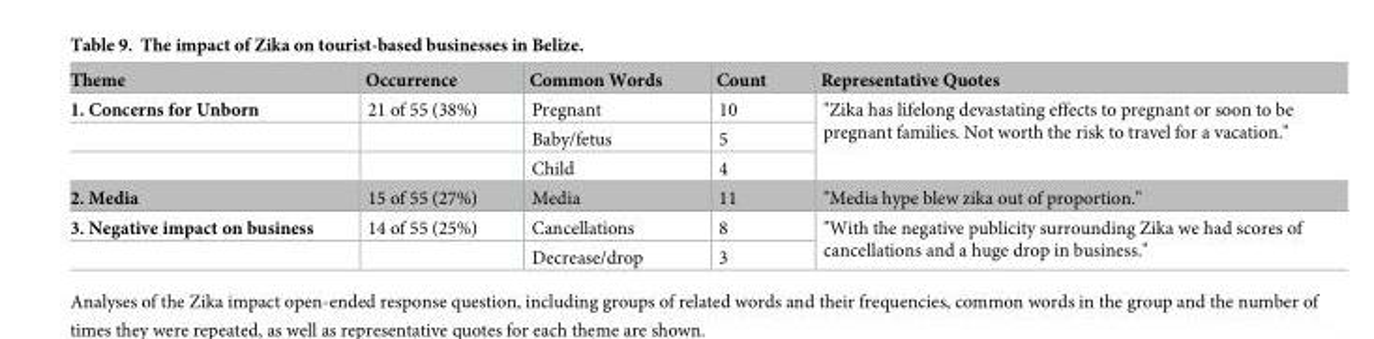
<table><thead><tr><td>Theme</td><td>Occurrence</td><td>Common Words</td><td>Count</td><td>Representative Quotes</td></tr></thead><tbody><tr><td rowspan="3">1. Concerns for Unborn</td><td>21 of 55 (38%)</td><td>Pregnant</td><td>10</td><td rowspan="3">&quot;Zika has lifelong devastating effects to pregnant or soon to be pregnant families. Not worth the risk to travel for a vacation.&quot;</td></tr><tr><td></td><td>Baby/fetus</td><td>5</td></tr><tr><td></td><td>Child</td><td>4</td></tr><tr><td>2. Media</td><td>15 of 55 (27%)</td><td>Media</td><td>11</td><td>&quot;Media hype blew zika out of proportion.&quot;</td></tr><tr><td rowspan="2">3. Negative impact on business</td><td>14 of 55 (25%)</td><td>Cancellations</td><td>8</td><td rowspan="2">&quot;With the negative publicity surrounding Zika we had scores of cancellations and a huge drop in business.&quot;</td></tr><tr><td></td><td>Decrease/drop</td><td>3</td></tr></tbody></table>